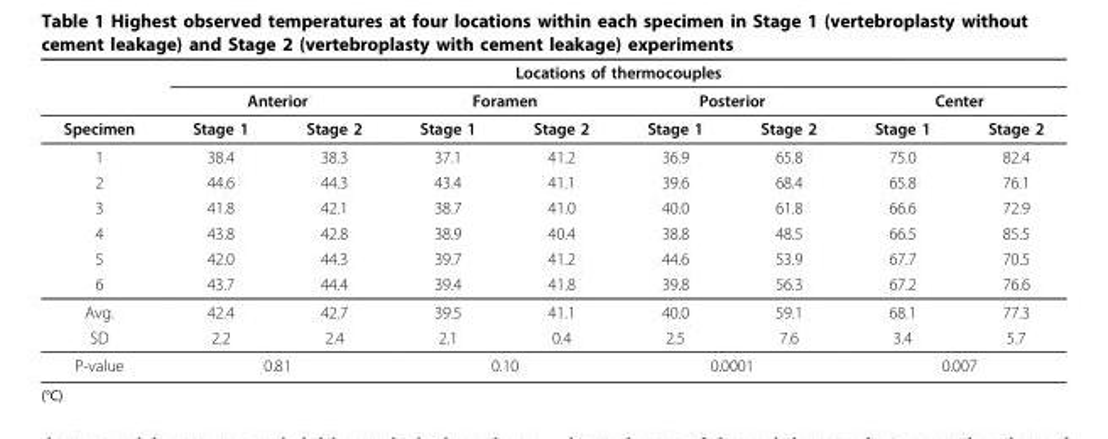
<table><thead><tr><td rowspan="3">Specimen</td><td colspan="8">Locations of thermocouples</td></tr><tr><td colspan="2">Anterior</td><td colspan="2">Foramen</td><td colspan="2">Posterior</td><td colspan="2">Center</td></tr><tr><td>Stage 1</td><td>Stage 2</td><td>Stage 1</td><td>Stage 2</td><td>Stage 1</td><td>Stage 2</td><td>Stage 1</td><td>Stage 2</td></tr></thead><tbody><tr><td>1</td><td>38.4</td><td>38.3</td><td>37.1</td><td>41.2</td><td>36.9</td><td>65.8</td><td>75.0</td><td>82.4</td></tr><tr><td>2</td><td>44.6</td><td>44.3</td><td>43.4</td><td>41.1</td><td>39.6</td><td>68.4</td><td>65.8</td><td>76.1</td></tr><tr><td>3</td><td>41.8</td><td>42.1</td><td>38.7</td><td>41.0</td><td>40.0</td><td>61.8</td><td>66.6</td><td>72.9</td></tr><tr><td>4</td><td>43.8</td><td>42.8</td><td>38.9</td><td>40.4</td><td>38.8</td><td>48.5</td><td>66.5</td><td>85.5</td></tr><tr><td>5</td><td>42.0</td><td>44.3</td><td>39.7</td><td>41.2</td><td>44.6</td><td>53.9</td><td>67.7</td><td>70.5</td></tr><tr><td>6</td><td>43.7</td><td>44.4</td><td>39.4</td><td>41.8</td><td>39.8</td><td>56.3</td><td>67.2</td><td>76.6</td></tr><tr><td>Avg.</td><td>42.4</td><td>42.7</td><td>39.5</td><td>41.1</td><td>40.0</td><td>59.1</td><td>68.1</td><td>77.3</td></tr><tr><td>SD</td><td>2.2</td><td>2.4</td><td>2.1</td><td>0.4</td><td>2.5</td><td>7.6</td><td>3.4</td><td>5.7</td></tr><tr><td>P-value</td><td colspan="2">0.81</td><td colspan="2">0.10</td><td colspan="2">0.0001</td><td colspan="2">0.007</td></tr></tbody></table>